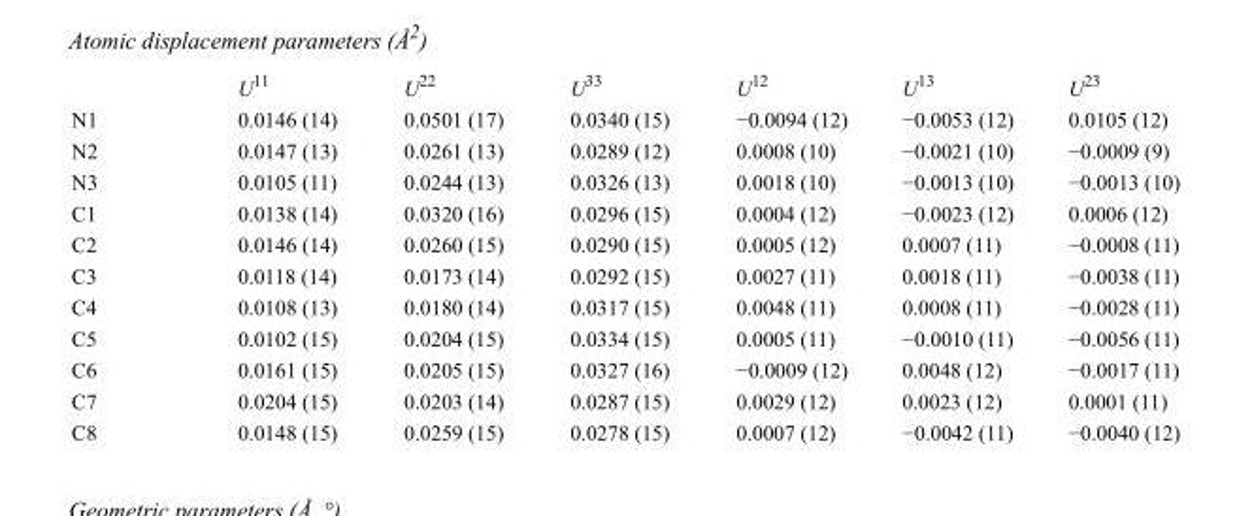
<table><thead><tr><td></td><td>U<sup>11</sup></td><td>U<sup>22</sup></td><td>U<sup>33</sup></td><td>U<sup>12</sup></td><td>U<sup>13</sup></td><td>U<sup>23</sup></td></tr></thead><tbody><tr><td>N1</td><td>0.0146 (14)</td><td>0.0501 (17)</td><td>0.0340 (15)</td><td>−0.0094 (12)</td><td>−0.0053 (12)</td><td>0.0105 (12)</td></tr><tr><td>N2</td><td>0.0147 (13)</td><td>0.0261 (13)</td><td>0.0289 (12)</td><td>0.0008 (10)</td><td>−0.0021 (10)</td><td>−0.0009 (9)</td></tr><tr><td>N3</td><td>0.0105 (11)</td><td>0.0244 (13)</td><td>0.0326 (13)</td><td>0.0018 (10)</td><td>−0.0013 (10)</td><td>−0.0013 (10)</td></tr><tr><td>C1</td><td>0.0138 (14)</td><td>0.0320 (16)</td><td>0.0296 (15)</td><td>0.0004 (12)</td><td>−0.0023 (12)</td><td>0.0006 (12)</td></tr><tr><td>C2</td><td>0.0146 (14)</td><td>0.0260 (15)</td><td>0.0290 (15)</td><td>0.0005 (12)</td><td>0.0007 (11)</td><td>−0.0008 (11)</td></tr><tr><td>C3</td><td>0.0118 (14)</td><td>0.0173 (14)</td><td>0.0292 (15)</td><td>0.0027 (11)</td><td>0.0018 (11)</td><td>−0.0038 (11)</td></tr><tr><td>C4</td><td>0.0108 (13)</td><td>0.0180 (14)</td><td>0.0317 (15)</td><td>0.0048 (11)</td><td>0.0008 (11)</td><td>−0.0028 (11)</td></tr><tr><td>C5</td><td>0.0102 (15)</td><td>0.0204 (15)</td><td>0.0334 (15)</td><td>0.0005 (11)</td><td>−0.0010 (11)</td><td>−0.0056 (11)</td></tr><tr><td>C6</td><td>0.0161 (15)</td><td>0.0205 (15)</td><td>0.0327 (16)</td><td>−0.0009 (12)</td><td>0.0048 (12)</td><td>−0.0017 (11)</td></tr><tr><td>C7</td><td>0.0204 (15)</td><td>0.0203 (14)</td><td>0.0287 (15)</td><td>0.0029 (12)</td><td>0.0023 (12)</td><td>0.0001 (11)</td></tr><tr><td>C8</td><td>0.0148 (15)</td><td>0.0259 (15)</td><td>0.0278 (15)</td><td>0.0007 (12)</td><td>−0.0042 (11)</td><td>−0.0040 (12)</td></tr></tbody></table>